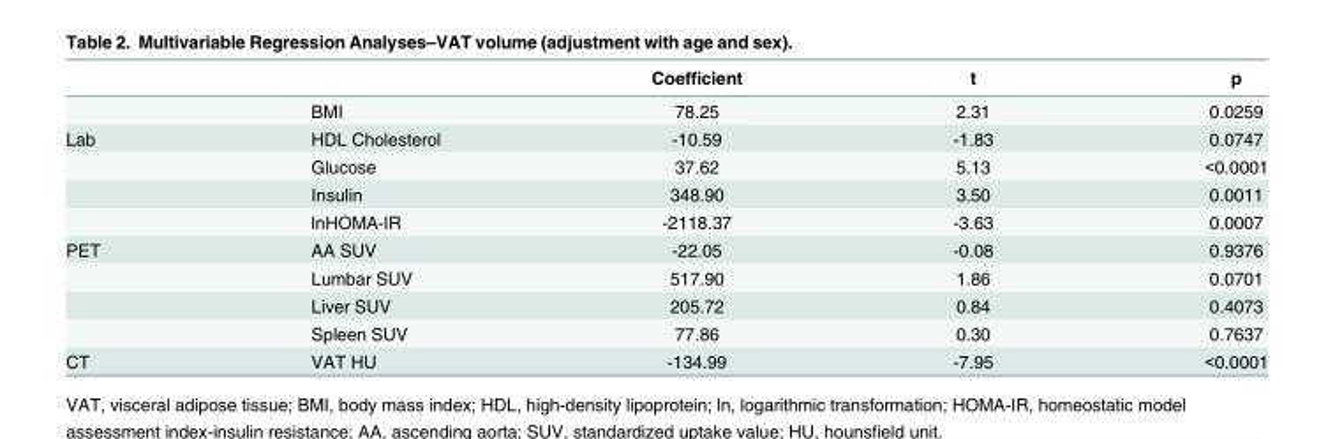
<table><thead><tr><td></td><td></td><td>Coefficient</td><td>t</td><td>p</td></tr></thead><tbody><tr><td></td><td>BMI</td><td>78.25</td><td>2.31</td><td>0.0259</td></tr><tr><td rowspan="4">Lab</td><td>HDL Cholesterol</td><td>-10.59</td><td>-1.83</td><td>0.0747</td></tr><tr><td>Glucose</td><td>37.62</td><td>5.13</td><td>&lt;0.0001</td></tr><tr><td>Insulin</td><td>348.90</td><td>3.50</td><td>0.0011</td></tr><tr><td>lnHOMA-IR</td><td>-2118.37</td><td>-3.63</td><td>0.0007</td></tr><tr><td rowspan="4">PET</td><td>AA SUV</td><td>-22.05</td><td>-0.08</td><td>0.9376</td></tr><tr><td>Lumbar SUV</td><td>517.90</td><td>1.86</td><td>0.0701</td></tr><tr><td>Liver SUV</td><td>205.72</td><td>0.84</td><td>0.4073</td></tr><tr><td>Spleen SUV</td><td>77.86</td><td>0.30</td><td>0.7637</td></tr><tr><td>CT</td><td>VAT HU</td><td>-134.99</td><td>-7.95</td><td>&lt;0.0001</td></tr></tbody></table>